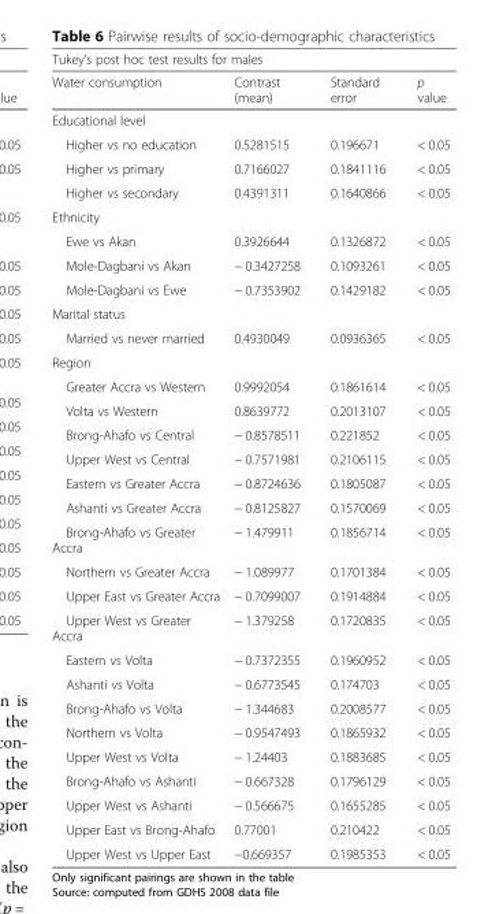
<table><thead><tr><td colspan="4">Tukey’s post hoc test results for males</td></tr><tr><td>Water consumption</td><td>Contrast (mean)</td><td>Standard error</td><td>p value</td></tr></thead><tbody><tr><td colspan="4">Educational level</td></tr><tr><td>Higher vs no education</td><td>0.5281515</td><td>0.196671</td><td>&lt; 0.05</td></tr><tr><td>Higher vs primary</td><td>0.7166027</td><td>0.1841116</td><td>&lt; 0.05</td></tr><tr><td>Higher vs secondary</td><td>0.4391311</td><td>0.1640866</td><td>&lt; 0.05</td></tr><tr><td colspan="4">Ethnicity</td></tr><tr><td>Ewe vs Akan</td><td>0.3926644</td><td>0.1326872</td><td>&lt; 0.05</td></tr><tr><td>Mole-Dagbani vs Akan</td><td>− 0.3427258</td><td>0.1093261</td><td>&lt; 0.05</td></tr><tr><td>Mole-Dagbani vs Ewe</td><td>− 0.7353902</td><td>0.1429182</td><td>&lt; 0.05</td></tr><tr><td colspan="4">Marital status</td></tr><tr><td>Married vs never married</td><td>0.4930049</td><td>0.0936365</td><td>&lt; 0.05</td></tr><tr><td colspan="4">Region</td></tr><tr><td>Greater Accra vs Western</td><td>0.9992054</td><td>0.1861614</td><td>&lt; 0.05</td></tr><tr><td>Volta vs Western</td><td>0.8639772</td><td>0.2013107</td><td>&lt; 0.05</td></tr><tr><td>Brong-Ahafo vs Central</td><td>− 0.8578511</td><td>0.221852</td><td>&lt; 0.05</td></tr><tr><td>Upper West vs Central</td><td>− 0.7571981</td><td>0.2106115</td><td>&lt; 0.05</td></tr><tr><td>Eastern vs Greater Accra</td><td>− 0.8724636</td><td>0.1805087</td><td>&lt; 0.05</td></tr><tr><td>Ashanti vs Greater Accra</td><td>− 0.8125827</td><td>0.1570069</td><td>&lt; 0.05</td></tr><tr><td>Brong-Ahafo vs Greater Accra</td><td>− 1.479911</td><td>0.1856714</td><td>&lt; 0.05</td></tr><tr><td>Northern vs Greater Accra</td><td>− 1.089977</td><td>0.1701384</td><td>&lt; 0.05</td></tr><tr><td>Upper East vs Greater Accra</td><td>− 0.7099007</td><td>0.1914884</td><td>&lt; 0.05</td></tr><tr><td>Upper West vs Greater Accra</td><td>− 1.379258</td><td>0.1720835</td><td>&lt; 0.05</td></tr><tr><td>Eastern vs Volta</td><td>− 0.7372355</td><td>0.1960952</td><td>&lt; 0.05</td></tr><tr><td>Ashanti vs Volta</td><td>− 0.6773545</td><td>0.174703</td><td>&lt; 0.05</td></tr><tr><td>Brong-Ahafo vs Volta</td><td>− 1.344683</td><td>0.2008577</td><td>&lt; 0.05</td></tr><tr><td>Northern vs Volta</td><td>− 0.9547493</td><td>0.1865932</td><td>&lt; 0.05</td></tr><tr><td>Upper West vs Volta</td><td>− 1.24403</td><td>0.1883685</td><td>&lt; 0.05</td></tr><tr><td>Brong-Ahafo vs Ashanti</td><td>− 0.667328</td><td>0.1796129</td><td>&lt; 0.05</td></tr><tr><td>Upper West vs Ashanti</td><td>− 0.566675</td><td>0.1655285</td><td>&lt; 0.05</td></tr><tr><td>Upper East vs Brong-Ahafo</td><td>0.77001</td><td>0.210422</td><td>&lt; 0.05</td></tr><tr><td>Upper West vs Upper East</td><td>−0.669357</td><td>0.1985353</td><td>&lt; 0.05</td></tr></tbody></table>